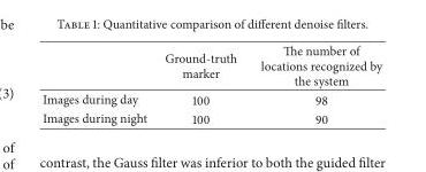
<table><thead><tr><td></td><td>Ground-truth marker</td><td>The number of locations recognized by the system</td></tr></thead><tbody><tr><td>Images during day</td><td>100</td><td>98</td></tr><tr><td>Images during night</td><td>100</td><td>90</td></tr></tbody></table>